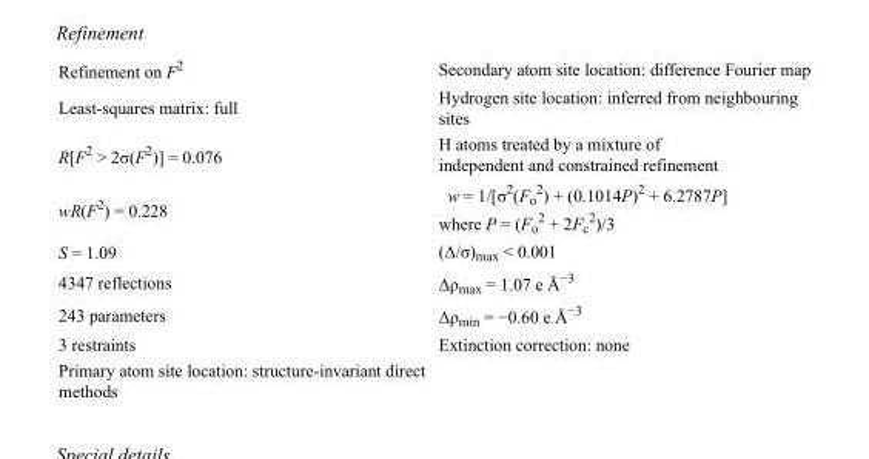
<table><tbody><tr><td>Refinement on F<sup>2</sup></td><td>Secondary atom site location: difference Fourier map</td></tr><tr><td>Least-squares matrix: full</td><td>Hydrogen site location: inferred from neighbouring sites</td></tr><tr><td>R[F<sup>2</sup> &gt; 2σ(F<sup>2</sup>)] = 0.076</td><td>H atoms treated by a mixture of independent and constrained refinement</td></tr><tr><td>wR(F<sup>2</sup>) = 0.228</td><td>w = 1/[σ<sup>2</sup>(F<sub>o</sub> <sup>2</sup>) + (0.1014P)<sup>2</sup> + 6.2787P] where P = (F<sub>o</sub> <sup>2</sup> + 2F<sub>c</sub> <sup>2</sup>)/3</td></tr><tr><td>S = 1.09</td><td>(Δ/σ)<sub>max</sub> &lt; 0.001</td></tr><tr><td>4347 reflections</td><td>Δρ<sub>max</sub> = 1.07 e Å<sup>−3</sup></td></tr><tr><td>243 parameters</td><td>Δρ<sub>min</sub> = −0.60 e Å<sup>−3</sup></td></tr><tr><td>3 restraints</td><td>Extinction correction: none</td></tr><tr><td>Primary atom site location: structure-invariant direct methods</td><td></td></tr></tbody></table>